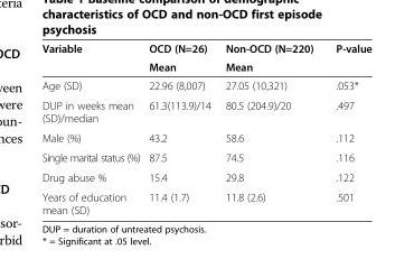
<table><thead><tr><td rowspan="2">Variable</td><td rowspan="2">OCD (N=26) Mean</td><td rowspan="2">Non-OCD (N=220) Mean</td><td rowspan="2">P-value</td></tr><tr></tr></thead><tbody><tr><td>Age (SD)</td><td>22.96 (8,007)</td><td>27.05 (10,321)</td><td>.053*</td></tr><tr><td>DUP in weeks mean (SD)/median</td><td>61.3(113.9)/14</td><td>80.5 (204.9)/20</td><td>.497</td></tr><tr><td>Male (%)</td><td>43.2</td><td>58.6</td><td>.112</td></tr><tr><td>Single marital status (%)</td><td>87.5</td><td>74.5</td><td>.116</td></tr><tr><td>Drug abuse %</td><td>15.4</td><td>29.8</td><td>.122</td></tr><tr><td>Years of education mean (SD)</td><td>11.4 (1.7)</td><td>11.8 (2.6)</td><td>.501</td></tr></tbody></table>